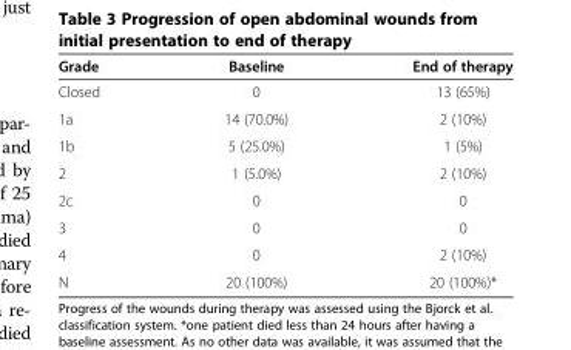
<table><thead><tr><td>Grade</td><td>Baseline</td><td>End of therapy</td></tr></thead><tbody><tr><td>Closed</td><td>0</td><td>13 (65%)</td></tr><tr><td>1a</td><td>14 (70.0%)</td><td>2 (10%)</td></tr><tr><td>1b</td><td>5 (25.0%)</td><td>1 (5%)</td></tr><tr><td>2</td><td>1 (5.0%)</td><td>2 (10%)</td></tr><tr><td>2c</td><td>0</td><td>0</td></tr><tr><td>3</td><td>0</td><td>0</td></tr><tr><td>4</td><td>0</td><td>2 (10%)</td></tr><tr><td>N</td><td>20 (100%)</td><td>20 (100%)*</td></tr></tbody></table>